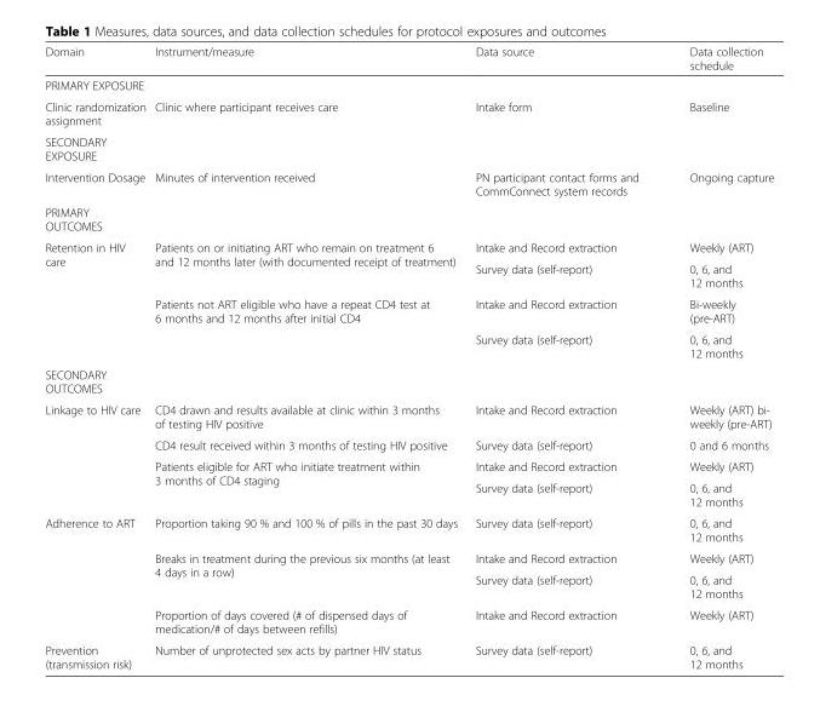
<table><thead><tr><td>Domain</td><td>Instrument/measure</td><td>Data source</td><td>Data collection schedule</td></tr></thead><tbody><tr><td colspan="4">PRIMARY EXPOSURE</td></tr><tr><td>Clinic randomization assignment</td><td>Clinic where participant receives care</td><td>Intake form</td><td>Baseline</td></tr><tr><td colspan="4">SECONDARY EXPOSURE</td></tr><tr><td>Intervention Dosage</td><td>Minutes of intervention received</td><td>PN participant contact forms and CommConnect system records</td><td>Ongoing capture</td></tr><tr><td colspan="4">PRIMARY OUTCOMES</td></tr><tr><td rowspan="4">Retention in HIV care</td><td rowspan="2">Patients on or initiating ART who remain on treatment 6 and 12 months later (with documented receipt of treatment)</td><td>Intake and Record extraction</td><td>Weekly (ART)</td></tr><tr><td>Survey data (self-report)</td><td>0, 6, and 12 months</td></tr><tr><td rowspan="2">Patients not ART eligible who have a repeat CD4 test at 6 months and 12 months after initial CD4</td><td>Intake and Record extraction</td><td>Bi-weekly (pre-ART)</td></tr><tr><td>Survey data (self-report)</td><td>0, 6, and 12 months</td></tr><tr><td colspan="4">SECONDARY OUTCOMES</td></tr><tr><td rowspan="4">Linkage to HIV care</td><td>CD4 drawn and results available at clinic within 3 months of testing HIV positive</td><td>Intake and Record extraction</td><td>Weekly (ART) bi- weekly (pre-ART)</td></tr><tr><td>CD4 result received within 3 months of testing HIV positive</td><td>Survey data (self-report)</td><td>0 and 6 months</td></tr><tr><td rowspan="2">Patients eligible for ART who initiate treatment within 3 months of CD4 staging</td><td>Intake and Record extraction</td><td>Weekly (ART)</td></tr><tr><td>Survey data (self-report)</td><td>0, 6, and 12 months</td></tr><tr><td rowspan="4">Adherence to ART</td><td>Proportion taking 90 % and 100 % of pills in the past 30 days</td><td>Survey data (self-report)</td><td>0, 6, and 12 months</td></tr><tr><td rowspan="2">Breaks in treatment during the previous six months (at least 4 days in a row)</td><td>Intake and Record extraction</td><td>Weekly (ART)</td></tr><tr><td>Survey data (self-report)</td><td>0, 6, and 12 months</td></tr><tr><td>Proportion of days covered (# of dispensed days of medication/# of days between refills)</td><td>Intake and Record extraction</td><td>Weekly (ART)</td></tr><tr><td>Prevention (transmission risk)</td><td>Number of unprotected sex acts by partner HIV status</td><td>Survey data (self-report)</td><td>0, 6, and 12 months</td></tr></tbody></table>